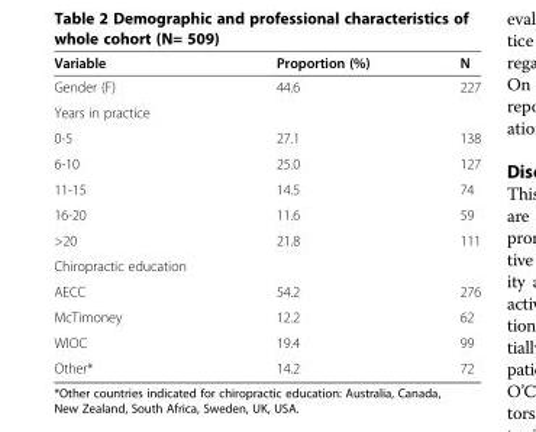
<table><thead><tr><td>Variable</td><td>Proportion (%)</td><td>N</td></tr></thead><tbody><tr><td>Gender (F)</td><td>44.6</td><td>227</td></tr><tr><td colspan="3">Years in practice</td></tr><tr><td>0-5</td><td>27.1</td><td>138</td></tr><tr><td>6-10</td><td>25.0</td><td>127</td></tr><tr><td>11-15</td><td>14.5</td><td>74</td></tr><tr><td>16-20</td><td>11.6</td><td>59</td></tr><tr><td>&gt;20</td><td>21.8</td><td>111</td></tr><tr><td colspan="3">Chiropractic education</td></tr><tr><td>AECC</td><td>54.2</td><td>276</td></tr><tr><td>McTimoney</td><td>12.2</td><td>62</td></tr><tr><td>WIOC</td><td>19.4</td><td>99</td></tr><tr><td>Other*</td><td>14.2</td><td>72</td></tr></tbody></table>